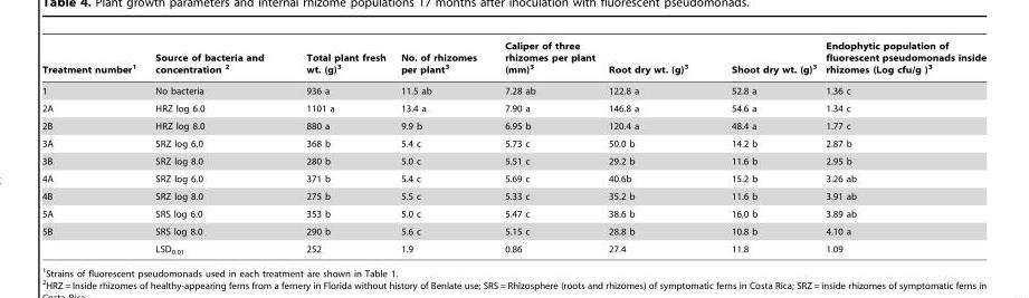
<table><thead><tr><td>Treatment number<sup>1</sup></td><td>Source of bacteria and concentration 2</td><td>Total plant fresh wt. (g)<sup>3</sup></td><td>No. of rhizomes per plant<sup>3</sup></td><td>Caliper of three rhizomes per plant (mm)<sup>3</sup></td><td>Root dry wt. (g)<sup>3</sup></td><td>Shoot dry wt. (g)<sup>3</sup></td><td>Endophytic population of fluorescent pseudomonads inside rhizomes (Log cfu/g )<sup>3</sup></td></tr></thead><tbody><tr><td>1</td><td>No bacteria</td><td>936 a</td><td>11.5 ab</td><td>7.28 ab</td><td>122.8 a</td><td>52.8 a</td><td>1.36 c</td></tr><tr><td>2A</td><td>HRZ log 6.0</td><td>1101 a</td><td>13.4 a</td><td>7.90 a</td><td>146.8 a</td><td>54.6 a</td><td>1.34 c</td></tr><tr><td>2B</td><td>HRZ log 8.0</td><td>880 a</td><td>9.9 b</td><td>6.95 b</td><td>120.4 a</td><td>48.4 a</td><td>1.77 c</td></tr><tr><td>3A</td><td>SRZ log 6.0</td><td>368 b</td><td>5.4 c</td><td>5.73 c</td><td>50.0 b</td><td>14.2 b</td><td>2.87 b</td></tr><tr><td>3B</td><td>SRZ log 8.0</td><td>280 b</td><td>5.0 c</td><td>5.51 c</td><td>29.2 b</td><td>11.6 b</td><td>2.95 b</td></tr><tr><td>4A</td><td>SRZ log 6.0</td><td>371 b</td><td>5.4 c</td><td>5.69 c</td><td>40.6b</td><td>15.2 b</td><td>3.26 ab</td></tr><tr><td>4B</td><td>SRZ log 8.0</td><td>275 b</td><td>5.5 c</td><td>5.33 c</td><td>35.2 b</td><td>11.6 b</td><td>3.91 ab</td></tr><tr><td>5A</td><td>SRS log 6.0</td><td>353 b</td><td>5.0 c</td><td>5.47 c</td><td>38.6 b</td><td>16,0 b</td><td>3.89 ab</td></tr><tr><td rowspan="2">5B</td><td>SRS log 8.0</td><td>290 b</td><td>5.6 c</td><td>5.15 c</td><td>28.8 b</td><td>10.8 b</td><td>4.10 a</td></tr><tr><td>LSD<sub>0.01</sub></td><td>252</td><td>1.9</td><td>0.86</td><td>27.4</td><td>11.8</td><td>1.09</td></tr></tbody></table>